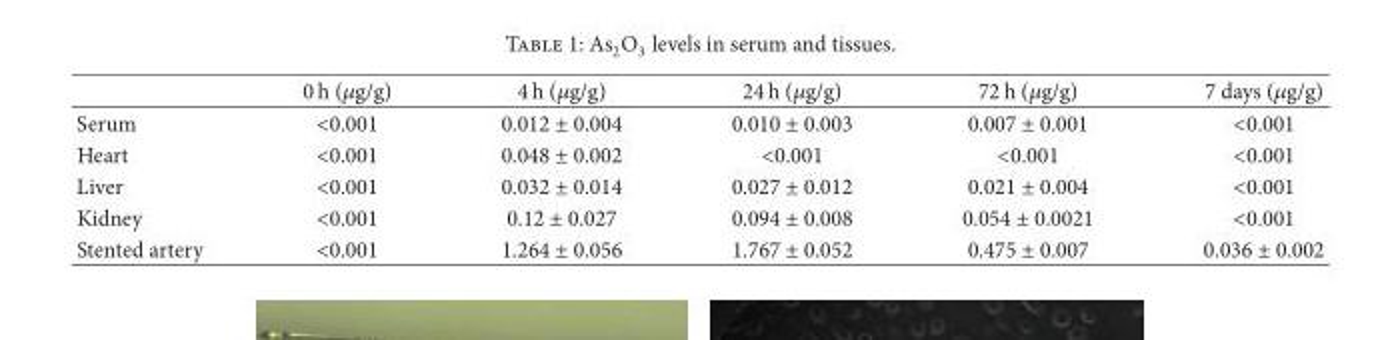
<table><thead><tr><td></td><td>0 h (𝜇𝜇g/g)</td><td>4 h (𝜇𝜇g/g)</td><td>24 h (𝜇𝜇g/g)</td><td>72 h (𝜇𝜇g/g)</td><td>7 days (𝜇𝜇g/g)</td></tr></thead><tbody><tr><td>Serum</td><td>&lt;0.001</td><td>0.012 ± 0.004</td><td>0.010 ± 0.003</td><td>0.007 ± 0.001</td><td>&lt;0.001</td></tr><tr><td>Heart</td><td>&lt;0.001</td><td>0.048 ± 0.002</td><td>&lt;0.001</td><td>&lt;0.001</td><td>&lt;0.001</td></tr><tr><td>Liver</td><td>&lt;0.001</td><td>0.032 ± 0.014</td><td>0.027 ± 0.012</td><td>0.021 ± 0.004</td><td>&lt;0.001</td></tr><tr><td>Kidney</td><td>&lt;0.001</td><td>0.12 ± 0.027</td><td>0.094 ± 0.008</td><td>0.054 ± 0.0021</td><td>&lt;0.001</td></tr><tr><td>Stented artery</td><td>&lt;0.001</td><td>1.264 ± 0.056</td><td>1.767 ± 0.052</td><td>0.475 ± 0.007</td><td>0.036 ± 0.002</td></tr></tbody></table>